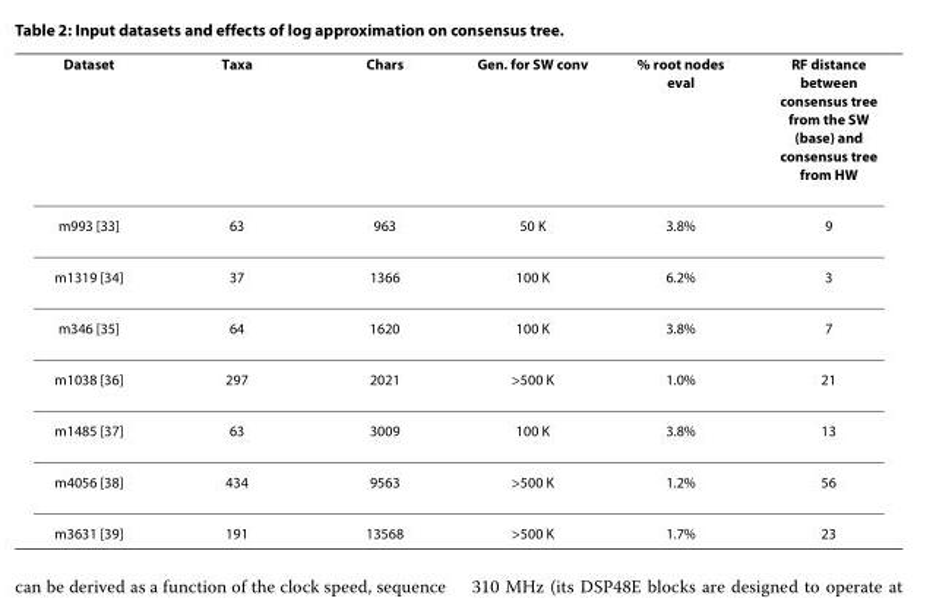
<table><thead><tr><td>Dataset</td><td>Taxa</td><td>Chars</td><td>Gen. for SW conv</td><td>% root nodes eval</td><td>RF distance between consensus tree from the SW (base) and consensus tree from HW</td></tr></thead><tbody><tr><td>m993 [33]</td><td>63</td><td>963</td><td>50 K</td><td>3.8%</td><td>9</td></tr><tr><td>m1319 [34]</td><td>37</td><td>1366</td><td>100 K</td><td>6.2%</td><td>3</td></tr><tr><td>m346 [35]</td><td>64</td><td>1620</td><td>100 K</td><td>3.8%</td><td>7</td></tr><tr><td>m1038 [36]</td><td>297</td><td>2021</td><td>&gt;500 K</td><td>1.0%</td><td>21</td></tr><tr><td>m1485 [37]</td><td>63</td><td>3009</td><td>100 K</td><td>3.8%</td><td>13</td></tr><tr><td>m4056 [38]</td><td>434</td><td>9563</td><td>&gt;500 K</td><td>1.2%</td><td>56</td></tr><tr><td>m3631 [39]</td><td>191</td><td>13568</td><td>&gt;500 K</td><td>1.7%</td><td>23</td></tr></tbody></table>